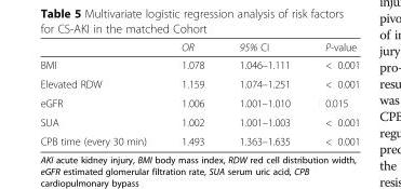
<table><thead><tr><td></td><td>OR</td><td>95% CI</td><td>P-value</td></tr></thead><tbody><tr><td>BMI</td><td>1.078</td><td>1.046–1.111</td><td>&lt; 0.001</td></tr><tr><td>Elevated RDW</td><td>1.159</td><td>1.074–1.251</td><td>&lt; 0.001</td></tr><tr><td>eGFR</td><td>1.006</td><td>1.001–1.010</td><td>0.015</td></tr><tr><td>SUA</td><td>1.002</td><td>1.001–1.003</td><td>&lt; 0.001</td></tr><tr><td>CPB time (every 30 min)</td><td>1.493</td><td>1.363–1.635</td><td>&lt; 0.001</td></tr></tbody></table>